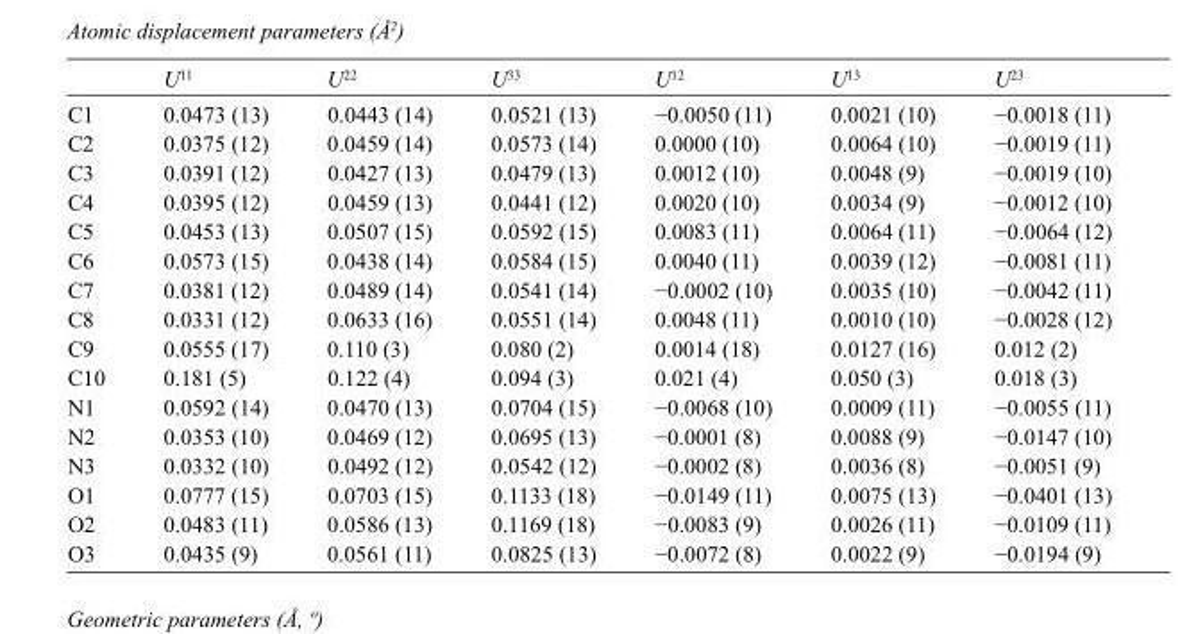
<table><thead><tr><td></td><td>U<sup>11</sup></td><td>U<sup>22</sup></td><td>U<sup>33</sup></td><td>U<sup>12</sup></td><td>U<sup>13</sup></td><td>U<sup>23</sup></td></tr></thead><tbody><tr><td>C1</td><td>0.0473 (13)</td><td>0.0443 (14)</td><td>0.0521 (13)</td><td>−0.0050 (11)</td><td>0.0021 (10)</td><td>−0.0018 (11)</td></tr><tr><td>C2</td><td>0.0375 (12)</td><td>0.0459 (14)</td><td>0.0573 (14)</td><td>0.0000 (10)</td><td>0.0064 (10)</td><td>−0.0019 (11)</td></tr><tr><td>C3</td><td>0.0391 (12)</td><td>0.0427 (13)</td><td>0.0479 (13)</td><td>0.0012 (10)</td><td>0.0048 (9)</td><td>−0.0019 (10)</td></tr><tr><td>C4</td><td>0.0395 (12)</td><td>0.0459 (13)</td><td>0.0441 (12)</td><td>0.0020 (10)</td><td>0.0034 (9)</td><td>−0.0012 (10)</td></tr><tr><td>C5</td><td>0.0453 (13)</td><td>0.0507 (15)</td><td>0.0592 (15)</td><td>0.0083 (11)</td><td>0.0064 (11)</td><td>−0.0064 (12)</td></tr><tr><td>C6</td><td>0.0573 (15)</td><td>0.0438 (14)</td><td>0.0584 (15)</td><td>0.0040 (11)</td><td>0.0039 (12)</td><td>−0.0081 (11)</td></tr><tr><td>C7</td><td>0.0381 (12)</td><td>0.0489 (14)</td><td>0.0541 (14)</td><td>−0.0002 (10)</td><td>0.0035 (10)</td><td>−0.0042 (11)</td></tr><tr><td>C8</td><td>0.0331 (12)</td><td>0.0633 (16)</td><td>0.0551 (14)</td><td>0.0048 (11)</td><td>0.0010 (10)</td><td>−0.0028 (12)</td></tr><tr><td>C9</td><td>0.0555 (17)</td><td>0.110 (3)</td><td>0.080 (2)</td><td>0.0014 (18)</td><td>0.0127 (16)</td><td>0.012 (2)</td></tr><tr><td>C10</td><td>0.181 (5)</td><td>0.122 (4)</td><td>0.094 (3)</td><td>0.021 (4)</td><td>0.050 (3)</td><td>0.018 (3)</td></tr><tr><td>N1</td><td>0.0592 (14)</td><td>0.0470 (13)</td><td>0.0704 (15)</td><td>−0.0068 (10)</td><td>0.0009 (11)</td><td>−0.0055 (11)</td></tr><tr><td>N2</td><td>0.0353 (10)</td><td>0.0469 (12)</td><td>0.0695 (13)</td><td>−0.0001 (8)</td><td>0.0088 (9)</td><td>−0.0147 (10)</td></tr><tr><td>N3</td><td>0.0332 (10)</td><td>0.0492 (12)</td><td>0.0542 (12)</td><td>−0.0002 (8)</td><td>0.0036 (8)</td><td>−0.0051 (9)</td></tr><tr><td>O1</td><td>0.0777 (15)</td><td>0.0703 (15)</td><td>0.1133 (18)</td><td>−0.0149 (11)</td><td>0.0075 (13)</td><td>−0.0401 (13)</td></tr><tr><td>O2</td><td>0.0483 (11)</td><td>0.0586 (13)</td><td>0.1169 (18)</td><td>−0.0083 (9)</td><td>0.0026 (11)</td><td>−0.0109 (11)</td></tr><tr><td>O3</td><td>0.0435 (9)</td><td>0.0561 (11)</td><td>0.0825 (13)</td><td>−0.0072 (8)</td><td>0.0022 (9)</td><td>−0.0194 (9)</td></tr></tbody></table>